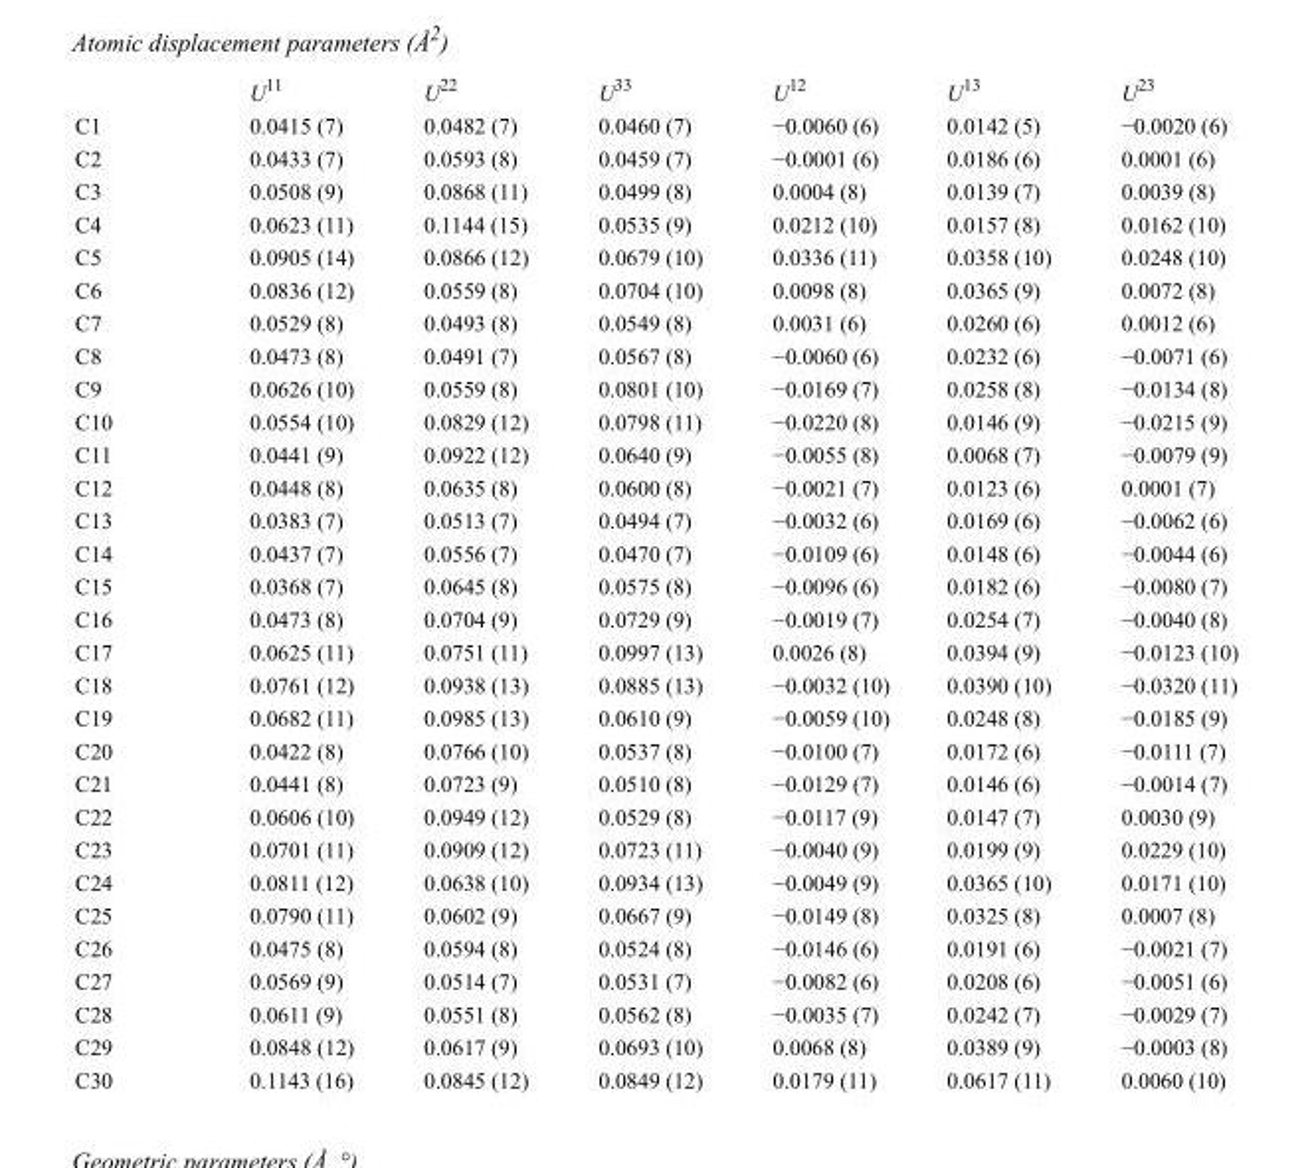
<table><thead><tr><td></td><td>U<sup>11</sup></td><td>U<sup>22</sup></td><td>U<sup>33</sup></td><td>U<sup>12</sup></td><td>U<sup>13</sup></td><td>U<sup>23</sup></td></tr></thead><tbody><tr><td>C1</td><td>0.0415 (7)</td><td>0.0482 (7)</td><td>0.0460 (7)</td><td>−0.0060 (6)</td><td>0.0142 (5)</td><td>−0.0020 (6)</td></tr><tr><td>C2</td><td>0.0433 (7)</td><td>0.0593 (8)</td><td>0.0459 (7)</td><td>−0.0001 (6)</td><td>0.0186 (6)</td><td>0.0001 (6)</td></tr><tr><td>C3</td><td>0.0508 (9)</td><td>0.0868 (11)</td><td>0.0499 (8)</td><td>0.0004 (8)</td><td>0.0139 (7)</td><td>0.0039 (8)</td></tr><tr><td>C4</td><td>0.0623 (11)</td><td>0.1144 (15)</td><td>0.0535 (9)</td><td>0.0212 (10)</td><td>0.0157 (8)</td><td>0.0162 (10)</td></tr><tr><td>C5</td><td>0.0905 (14)</td><td>0.0866 (12)</td><td>0.0679 (10)</td><td>0.0336 (11)</td><td>0.0358 (10)</td><td>0.0248 (10)</td></tr><tr><td>C6</td><td>0.0836 (12)</td><td>0.0559 (8)</td><td>0.0704 (10)</td><td>0.0098 (8)</td><td>0.0365 (9)</td><td>0.0072 (8)</td></tr><tr><td>C7</td><td>0.0529 (8)</td><td>0.0493 (8)</td><td>0.0549 (8)</td><td>0.0031 (6)</td><td>0.0260 (6)</td><td>0.0012 (6)</td></tr><tr><td>C8</td><td>0.0473 (8)</td><td>0.0491 (7)</td><td>0.0567 (8)</td><td>−0.0060 (6)</td><td>0.0232 (6)</td><td>−0.0071 (6)</td></tr><tr><td>C9</td><td>0.0626 (10)</td><td>0.0559 (8)</td><td>0.0801 (10)</td><td>−0.0169 (7)</td><td>0.0258 (8)</td><td>−0.0134 (8)</td></tr><tr><td>C10</td><td>0.0554 (10)</td><td>0.0829 (12)</td><td>0.0798 (11)</td><td>−0.0220 (8)</td><td>0.0146 (9)</td><td>−0.0215 (9)</td></tr><tr><td>C11</td><td>0.0441 (9)</td><td>0.0922 (12)</td><td>0.0640 (9)</td><td>−0.0055 (8)</td><td>0.0068 (7)</td><td>−0.0079 (9)</td></tr><tr><td>C12</td><td>0.0448 (8)</td><td>0.0635 (8)</td><td>0.0600 (8)</td><td>−0.0021 (7)</td><td>0.0123 (6)</td><td>0.0001 (7)</td></tr><tr><td>C13</td><td>0.0383 (7)</td><td>0.0513 (7)</td><td>0.0494 (7)</td><td>−0.0032 (6)</td><td>0.0169 (6)</td><td>−0.0062 (6)</td></tr><tr><td>C14</td><td>0.0437 (7)</td><td>0.0556 (7)</td><td>0.0470 (7)</td><td>−0.0109 (6)</td><td>0.0148 (6)</td><td>−0.0044 (6)</td></tr><tr><td>C15</td><td>0.0368 (7)</td><td>0.0645 (8)</td><td>0.0575 (8)</td><td>−0.0096 (6)</td><td>0.0182 (6)</td><td>−0.0080 (7)</td></tr><tr><td>C16</td><td>0.0473 (8)</td><td>0.0704 (9)</td><td>0.0729 (9)</td><td>−0.0019 (7)</td><td>0.0254 (7)</td><td>−0.0040 (8)</td></tr><tr><td>C17</td><td>0.0625 (11)</td><td>0.0751 (11)</td><td>0.0997 (13)</td><td>0.0026 (8)</td><td>0.0394 (9)</td><td>−0.0123 (10)</td></tr><tr><td>C18</td><td>0.0761 (12)</td><td>0.0938 (13)</td><td>0.0885 (13)</td><td>−0.0032 (10)</td><td>0.0390 (10)</td><td>−0.0320 (11)</td></tr><tr><td>C19</td><td>0.0682 (11)</td><td>0.0985 (13)</td><td>0.0610 (9)</td><td>−0.0059 (10)</td><td>0.0248 (8)</td><td>−0.0185 (9)</td></tr><tr><td>C20</td><td>0.0422 (8)</td><td>0.0766 (10)</td><td>0.0537 (8)</td><td>−0.0100 (7)</td><td>0.0172 (6)</td><td>−0.0111 (7)</td></tr><tr><td>C21</td><td>0.0441 (8)</td><td>0.0723 (9)</td><td>0.0510 (8)</td><td>−0.0129 (7)</td><td>0.0146 (6)</td><td>−0.0014 (7)</td></tr><tr><td>C22</td><td>0.0606 (10)</td><td>0.0949 (12)</td><td>0.0529 (8)</td><td>−0.0117 (9)</td><td>0.0147 (7)</td><td>0.0030 (9)</td></tr><tr><td>C23</td><td>0.0701 (11)</td><td>0.0909 (12)</td><td>0.0723 (11)</td><td>−0.0040 (9)</td><td>0.0199 (9)</td><td>0.0229 (10)</td></tr><tr><td>C24</td><td>0.0811 (12)</td><td>0.0638 (10)</td><td>0.0934 (13)</td><td>−0.0049 (9)</td><td>0.0365 (10)</td><td>0.0171 (10)</td></tr><tr><td>C25</td><td>0.0790 (11)</td><td>0.0602 (9)</td><td>0.0667 (9)</td><td>−0.0149 (8)</td><td>0.0325 (8)</td><td>0.0007 (8)</td></tr><tr><td>C26</td><td>0.0475 (8)</td><td>0.0594 (8)</td><td>0.0524 (8)</td><td>−0.0146 (6)</td><td>0.0191 (6)</td><td>−0.0021 (7)</td></tr><tr><td>C27</td><td>0.0569 (9)</td><td>0.0514 (7)</td><td>0.0531 (7)</td><td>−0.0082 (6)</td><td>0.0208 (6)</td><td>−0.0051 (6)</td></tr><tr><td>C28</td><td>0.0611 (9)</td><td>0.0551 (8)</td><td>0.0562 (8)</td><td>−0.0035 (7)</td><td>0.0242 (7)</td><td>−0.0029 (7)</td></tr><tr><td>C29</td><td>0.0848 (12)</td><td>0.0617 (9)</td><td>0.0693 (10)</td><td>0.0068 (8)</td><td>0.0389 (9)</td><td>−0.0003 (8)</td></tr><tr><td>C30</td><td>0.1143 (16)</td><td>0.0845 (12)</td><td>0.0849 (12)</td><td>0.0179 (11)</td><td>0.0617 (11)</td><td>0.0060 (10)</td></tr></tbody></table>